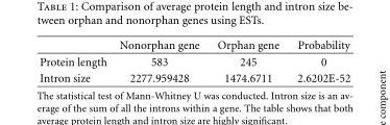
<table><thead><tr><td></td><td>Nonorphan gene</td><td>Orphan gene</td><td>Probability</td></tr></thead><tbody><tr><td>Protein length</td><td>583</td><td>245</td><td>0</td></tr><tr><td>Intron size</td><td>2277.959428</td><td>1474.6711</td><td>2.6202E-52</td></tr></tbody></table>